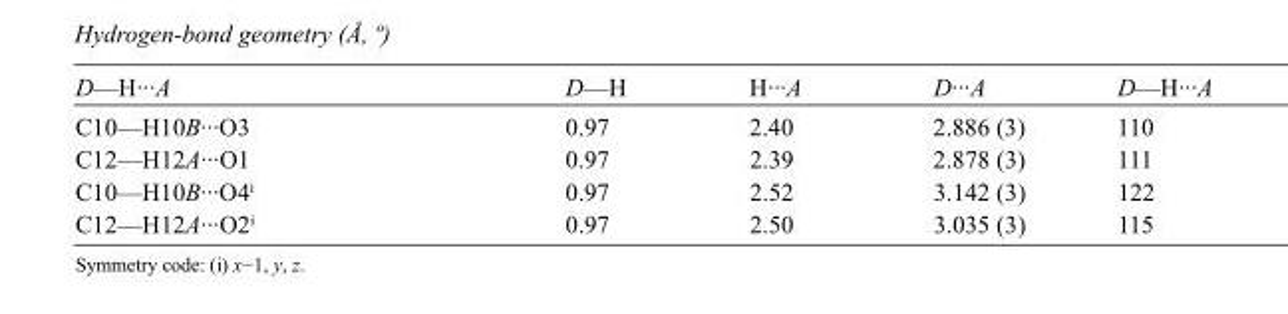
<table><tbody><tr><td>D—H···A</td><td>D—H</td><td>H···A</td><td>D···A</td><td>D—H···A</td></tr><tr><td>C10—H10B···O3</td><td>0.97</td><td>2.40</td><td>2.886 (3)</td><td>110</td></tr><tr><td>C12—H12A···O1</td><td>0.97</td><td>2.39</td><td>2.878 (3)</td><td>111</td></tr><tr><td>C10—H10B···O4<sup>i</sup></td><td>0.97</td><td>2.52</td><td>3.142 (3)</td><td>122</td></tr><tr><td>C12—H12A···O2<sup>i</sup></td><td>0.97</td><td>2.50</td><td>3.035 (3)</td><td>115</td></tr></tbody></table>